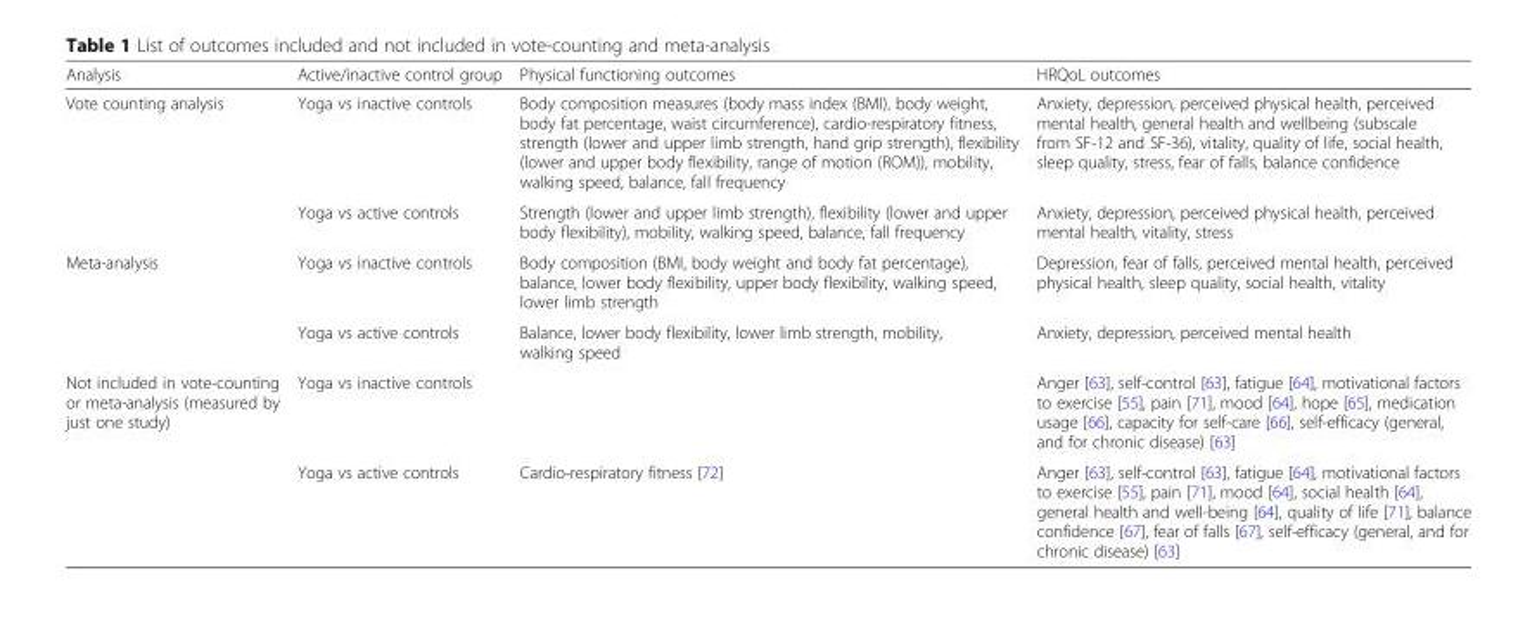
<table><thead><tr><td>Analysis</td><td>Active/inactive control group</td><td>Physical functioning outcomes</td><td>HRQoL outcomes</td></tr></thead><tbody><tr><td rowspan="2">Vote counting analysis</td><td>Yoga vs inactive controls</td><td>Body composition measures (body mass index (BMI), body weight, body fat percentage, waist circumference), cardio-respiratory fitness, strength (lower and upper limb strength, hand grip strength), flexibility (lower and upper body flexibility, range of motion (ROM)), mobility, walking speed, balance, fall frequency</td><td>Anxiety, depression, perceived physical health, perceived mental health, general health and wellbeing (subscale from SF-12 and SF-36), vitality, quality of life, social health, sleep quality, stress, fear of falls, balance confidence</td></tr><tr><td>Yoga vs active controls</td><td>Strength (lower and upper limb strength), flexibility (lower and upper body flexibility), mobility, walking speed, balance, fall frequency</td><td>Anxiety, depression, perceived physical health, perceived mental health, vitality, stress</td></tr><tr><td rowspan="2">Meta-analysis</td><td>Yoga vs inactive controls</td><td>Body composition (BMI, body weight and body fat percentage), balance, lower body flexibility, upper body flexibility, walking speed, lower limb strength</td><td>Depression, fear of falls, perceived mental health, perceived physical health, sleep quality, social health, vitality</td></tr><tr><td>Yoga vs active controls</td><td>Balance, lower body flexibility, lower limb strength, mobility, walking speed</td><td>Anxiety, depression, perceived mental health</td></tr><tr><td rowspan="2">Not included in vote-counting or meta-analysis (measured by just one study)</td><td>Yoga vs inactive controls</td><td></td><td>Anger [63], self-control [63], fatigue [64], motivational factors to exercise [55], pain [71], mood [64], hope [65], medication usage [66], capacity for self-care [66], self-efficacy (general, and for chronic disease) [63]</td></tr><tr><td>Yoga vs active controls</td><td>Cardio-respiratory fitness [72]</td><td>Anger [63], self-control [63], fatigue [64], motivational factors to exercise [55], pain [71], mood [64], social health [64], general health and well-being [64], quality of life [71], balance confidence [67], fear of falls [67], self-efficacy (general, and for chronic disease) [63]</td></tr></tbody></table>